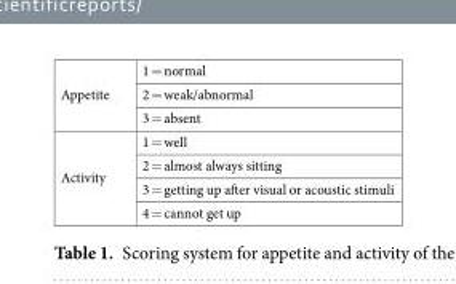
<table><tbody><tr><td rowspan="3">Appetite</td><td>1 = normal</td></tr><tr><td>2 = weak/abnormal</td></tr><tr><td>3 = absent</td></tr><tr><td rowspan="4">Activity</td><td>1 = well</td></tr><tr><td>2 = almost always sitting</td></tr><tr><td>3 = getting up after visual or acoustic stimuli</td></tr><tr><td>4 = cannot get up</td></tr></tbody></table>